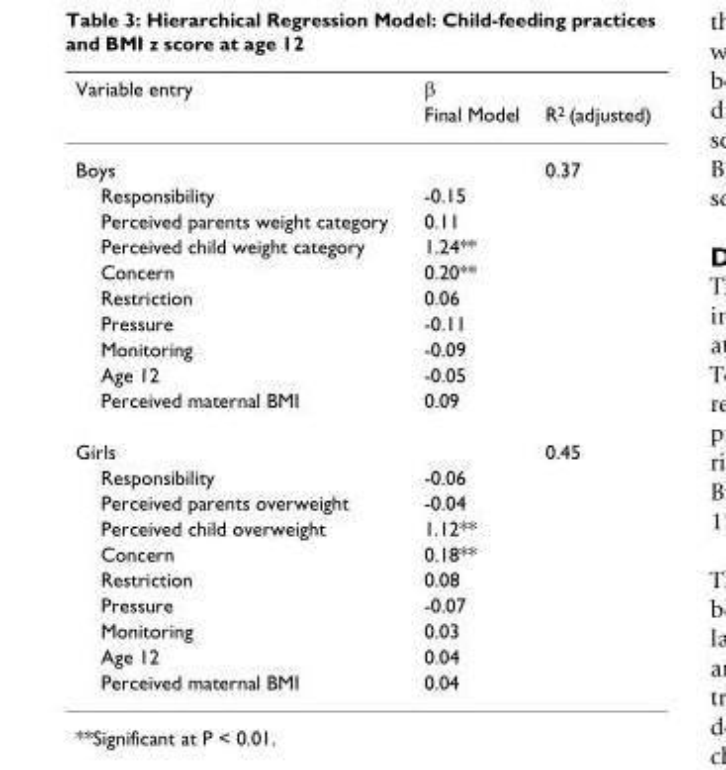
<table><thead><tr><td rowspan="2">Variable entry</td><td rowspan="2">β Final Model</td><td rowspan="2">R<sup>2</sup> (adjusted)</td></tr><tr></tr></thead><tbody><tr><td>Boys</td><td></td><td>0.37</td></tr><tr><td>Responsibility</td><td>-0.15</td><td></td></tr><tr><td>Perceived parents weight category</td><td>0.11</td><td></td></tr><tr><td>Perceived child weight category</td><td>1.24**</td><td></td></tr><tr><td>Concern</td><td>0.20**</td><td></td></tr><tr><td>Restriction</td><td>0.06</td><td></td></tr><tr><td>Pressure</td><td>-0.11</td><td></td></tr><tr><td>Monitoring</td><td>-0.09</td><td></td></tr><tr><td>Age 12</td><td>-0.05</td><td></td></tr><tr><td>Perceived maternal BMI</td><td>0.09</td><td></td></tr><tr><td>Girls</td><td></td><td>0.45</td></tr><tr><td>Responsibility</td><td>-0.06</td><td></td></tr><tr><td>Perceived parents overweight</td><td>-0.04</td><td></td></tr><tr><td>Perceived child overweight</td><td>1.12**</td><td></td></tr><tr><td>Concern</td><td>0.18**</td><td></td></tr><tr><td>Restriction</td><td>0.08</td><td></td></tr><tr><td>Pressure</td><td>-0.07</td><td></td></tr><tr><td>Monitoring</td><td>0.03</td><td></td></tr><tr><td>Age 12</td><td>0.04</td><td></td></tr><tr><td>Perceived maternal BMI</td><td>0.04</td><td></td></tr></tbody></table>